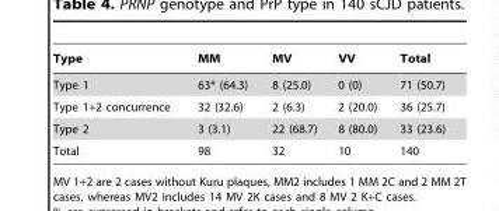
<table><thead><tr><td>Type</td><td>MM</td><td>MV</td><td>VV</td><td>Total</td></tr></thead><tbody><tr><td>Type 1</td><td>63* (64.3)</td><td>8 (25.0)</td><td>0 (0)</td><td>71 (50.7)</td></tr><tr><td>Type 1+2 concurrence</td><td>32 (32.6)</td><td>2 (6.3)</td><td>2 (20.0)</td><td>36 (25.7)</td></tr><tr><td>Type 2</td><td>3 (3.1)</td><td>22 (68.7)</td><td>8 (80.0)</td><td>33 (23.6)</td></tr><tr><td>Total</td><td>98</td><td>32</td><td>10</td><td>140</td></tr></tbody></table>